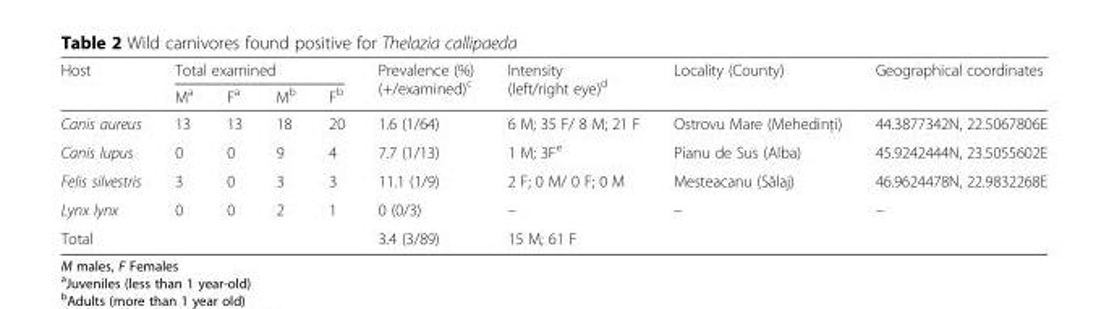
<table><thead><tr><td rowspan="2">Host</td><td colspan="4">Total examined</td><td rowspan="2">Prevalence (%) (+/examined)<sup>c</sup></td><td rowspan="2">Intensity (left/right eye)<sup>d</sup></td><td rowspan="2">Locality (County)</td><td rowspan="2">Geographical coordinates</td></tr><tr><td>M<sup>a</sup></td><td>F<sup>a</sup></td><td>M<sup>b</sup></td><td>F<sup>b</sup></td></tr></thead><tbody><tr><td>Canis aureus</td><td>13</td><td>13</td><td>18</td><td>20</td><td>1.6 (1/64)</td><td>6 M; 35 F/ 8 M; 21 F</td><td>Ostrovu Mare (Mehedinți)</td><td>44.3877342N, 22.5067806E</td></tr><tr><td>Canis lupus</td><td>0</td><td>0</td><td>9</td><td>4</td><td>7.7 (1/13)</td><td>1 M; 3F<sup>e</sup></td><td>Pianu de Sus (Alba)</td><td>45.9242444N, 23.5055602E</td></tr><tr><td>Felis silvestris</td><td>3</td><td>0</td><td>3</td><td>3</td><td>11.1 (1/9)</td><td>2 F; 0 M/ 0 F; 0 M</td><td>Mesteacanu (Sălaj)</td><td>46.9624478N, 22.9832268E</td></tr><tr><td>Lynx lynx</td><td>0</td><td>0</td><td>2</td><td>1</td><td>0 (0/3)</td><td>–</td><td>–</td><td>–</td></tr><tr><td>Total</td><td></td><td></td><td></td><td></td><td>3.4 (3/89)</td><td>15 M; 61 F</td><td></td><td></td></tr></tbody></table>